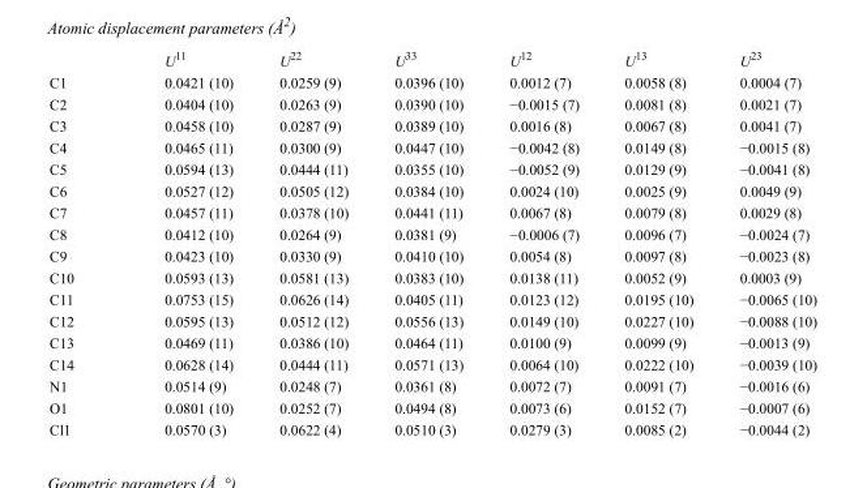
<table><thead><tr><td></td><td>U<sup>11</sup></td><td>U<sup>22</sup></td><td>U<sup>33</sup></td><td>U<sup>12</sup></td><td>U<sup>13</sup></td><td>U<sup>23</sup></td></tr></thead><tbody><tr><td>C1</td><td>0.0421 (10)</td><td>0.0259 (9)</td><td>0.0396 (10)</td><td>0.0012 (7)</td><td>0.0058 (8)</td><td>0.0004 (7)</td></tr><tr><td>C2</td><td>0.0404 (10)</td><td>0.0263 (9)</td><td>0.0390 (10)</td><td>−0.0015 (7)</td><td>0.0081 (8)</td><td>0.0021 (7)</td></tr><tr><td>C3</td><td>0.0458 (10)</td><td>0.0287 (9)</td><td>0.0389 (10)</td><td>0.0016 (8)</td><td>0.0067 (8)</td><td>0.0041 (7)</td></tr><tr><td>C4</td><td>0.0465 (11)</td><td>0.0300 (9)</td><td>0.0447 (10)</td><td>−0.0042 (8)</td><td>0.0149 (8)</td><td>−0.0015 (8)</td></tr><tr><td>C5</td><td>0.0594 (13)</td><td>0.0444 (11)</td><td>0.0355 (10)</td><td>−0.0052 (9)</td><td>0.0129 (9)</td><td>−0.0041 (8)</td></tr><tr><td>C6</td><td>0.0527 (12)</td><td>0.0505 (12)</td><td>0.0384 (10)</td><td>0.0024 (10)</td><td>0.0025 (9)</td><td>0.0049 (9)</td></tr><tr><td>C7</td><td>0.0457 (11)</td><td>0.0378 (10)</td><td>0.0441 (11)</td><td>0.0067 (8)</td><td>0.0079 (8)</td><td>0.0029 (8)</td></tr><tr><td>C8</td><td>0.0412 (10)</td><td>0.0264 (9)</td><td>0.0381 (9)</td><td>−0.0006 (7)</td><td>0.0096 (7)</td><td>−0.0024 (7)</td></tr><tr><td>C9</td><td>0.0423 (10)</td><td>0.0330 (9)</td><td>0.0410 (10)</td><td>0.0054 (8)</td><td>0.0097 (8)</td><td>−0.0023 (8)</td></tr><tr><td>C10</td><td>0.0593 (13)</td><td>0.0581 (13)</td><td>0.0383 (10)</td><td>0.0138 (11)</td><td>0.0052 (9)</td><td>0.0003 (9)</td></tr><tr><td>C11</td><td>0.0753 (15)</td><td>0.0626 (14)</td><td>0.0405 (11)</td><td>0.0123 (12)</td><td>0.0195 (10)</td><td>−0.0065 (10)</td></tr><tr><td>C12</td><td>0.0595 (13)</td><td>0.0512 (12)</td><td>0.0556 (13)</td><td>0.0149 (10)</td><td>0.0227 (10)</td><td>−0.0088 (10)</td></tr><tr><td>C13</td><td>0.0469 (11)</td><td>0.0386 (10)</td><td>0.0464 (11)</td><td>0.0100 (9)</td><td>0.0099 (9)</td><td>−0.0013 (9)</td></tr><tr><td>C14</td><td>0.0628 (14)</td><td>0.0444 (11)</td><td>0.0571 (13)</td><td>0.0064 (10)</td><td>0.0222 (10)</td><td>−0.0039 (10)</td></tr><tr><td>N1</td><td>0.0514 (9)</td><td>0.0248 (7)</td><td>0.0361 (8)</td><td>0.0072 (7)</td><td>0.0091 (7)</td><td>−0.0016 (6)</td></tr><tr><td>O1</td><td>0.0801 (10)</td><td>0.0252 (7)</td><td>0.0494 (8)</td><td>0.0073 (6)</td><td>0.0152 (7)</td><td>−0.0007 (6)</td></tr><tr><td>Cl1</td><td>0.0570 (3)</td><td>0.0622 (4)</td><td>0.0510 (3)</td><td>0.0279 (3)</td><td>0.0085 (2)</td><td>−0.0044 (2)</td></tr></tbody></table>